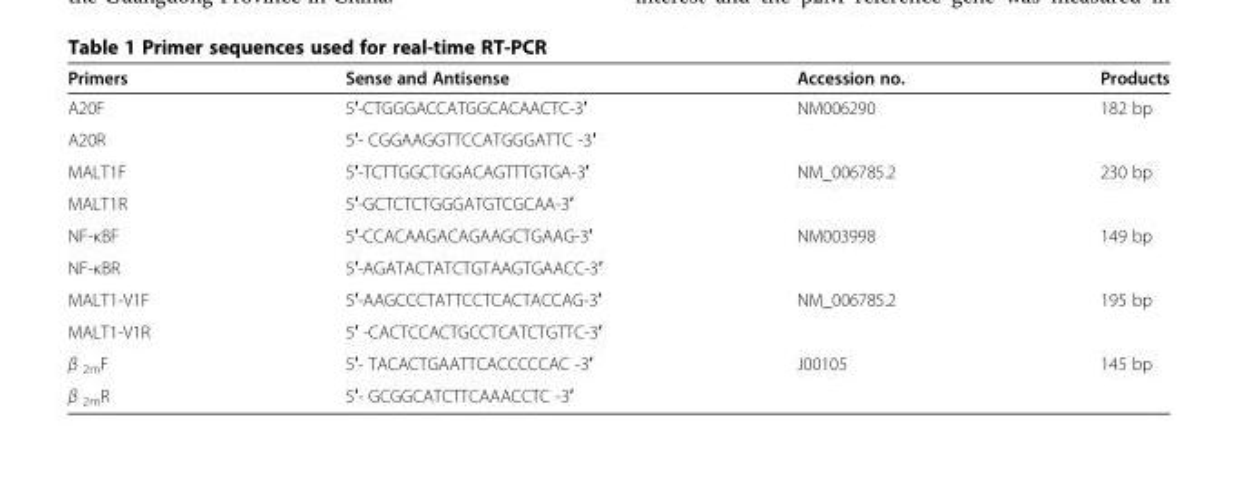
<table><thead><tr><td>Primers</td><td>Sense and Antisense</td><td>Accession no.</td><td>Products</td></tr></thead><tbody><tr><td>A20F</td><td>5′-CTGGGACCATGGCACAACTC-3′</td><td>NM006290</td><td>182 bp</td></tr><tr><td>A20R</td><td>5′- CGGAAGGTTCCATGGGATTC -3′</td><td></td><td></td></tr><tr><td>MALT1F</td><td>5′-TCTTGGCTGGACAGTTTGTGA-3′</td><td>NM_006785.2</td><td>230 bp</td></tr><tr><td>MALT1R</td><td>5′-GCTCTCTGGGATGTCGCAA-3′</td><td></td><td></td></tr><tr><td>NF-κBF</td><td>5′-CCACAAGACAGAAGCTGAAG-3′</td><td>NM003998</td><td>149 bp</td></tr><tr><td>NF-κBR</td><td>5′-AGATACTATCTGTAAGTGAACC-3′</td><td></td><td></td></tr><tr><td>MALT1-V1F</td><td>5′-AAGCCCTATTCCTCACTACCAG-3′</td><td>NM_006785.2</td><td>195 bp</td></tr><tr><td>MALT1-V1R</td><td>5′ -CACTCCACTGCCTCATCTGTTC-3′</td><td></td><td></td></tr><tr><td>β <sub>2m</sub>F</td><td>5′- TACACTGAATTCACCCCCAC -3′</td><td>J00105</td><td>145 bp</td></tr><tr><td>β <sub>2m</sub>R</td><td>5′- GCGGCATCTTCAAACCTC -3′</td><td></td><td></td></tr></tbody></table>